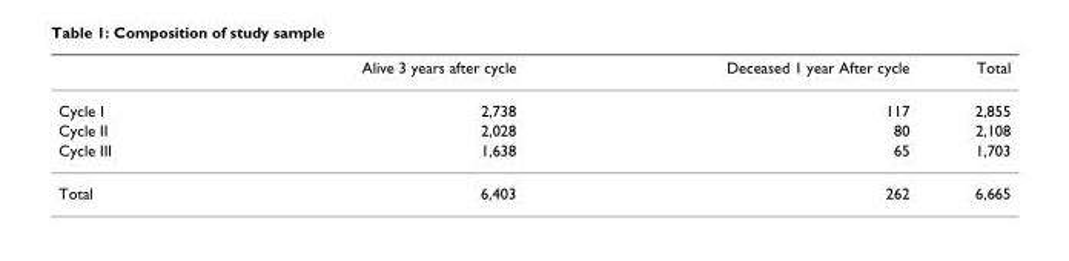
<table><thead><tr><td></td><td>Alive 3 years after cycle</td><td>Deceased 1 year After cycle</td><td>Total</td></tr></thead><tbody><tr><td>Cycle I</td><td>2,738</td><td>117</td><td>2,855</td></tr><tr><td>Cycle II</td><td>2,028</td><td>80</td><td>2,108</td></tr><tr><td>Cycle III</td><td>1,638</td><td>65</td><td>1,703</td></tr><tr><td>Total</td><td>6,403</td><td>262</td><td>6,665</td></tr></tbody></table>